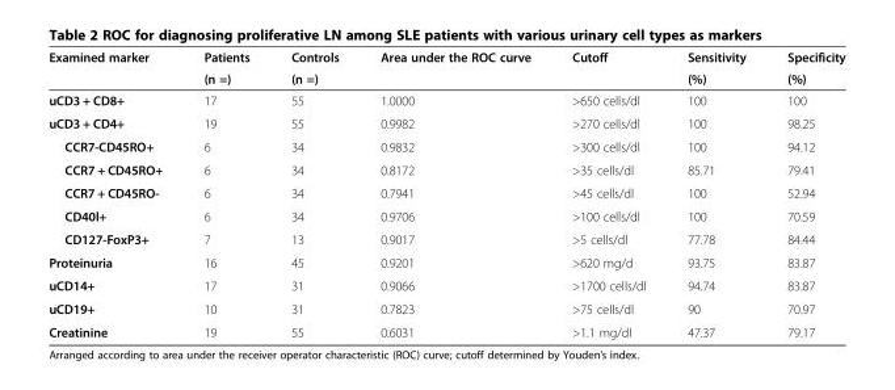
<table><thead><tr><td rowspan="2">Examined marker</td><td rowspan="2">Patients (n =)</td><td rowspan="2">Controls (n =)</td><td rowspan="2">Area under the ROC curve</td><td rowspan="2">Cutoff</td><td rowspan="2">Sensitivity (%)</td><td rowspan="2">Specificity (%)</td></tr><tr></tr></thead><tbody><tr><td>uCD3 + CD8+</td><td>17</td><td>55</td><td>1.0000</td><td>&gt;650 cells/dl</td><td>100</td><td>100</td></tr><tr><td>uCD3 + CD4+</td><td>19</td><td>55</td><td>0.9982</td><td>&gt;270 cells/dl</td><td>100</td><td>98.25</td></tr><tr><td>CCR7-CD45RO+</td><td>6</td><td>34</td><td>0.9832</td><td>&gt;300 cells/dl</td><td>100</td><td>94.12</td></tr><tr><td>CCR7 + CD45RO+</td><td>6</td><td>34</td><td>0.8172</td><td>&gt;35 cells/dl</td><td>85.71</td><td>79.41</td></tr><tr><td>CCR7 + CD45RO-</td><td>6</td><td>34</td><td>0.7941</td><td>&gt;45 cells/dl</td><td>100</td><td>52.94</td></tr><tr><td>CD40l+</td><td>6</td><td>34</td><td>0.9706</td><td>&gt;100 cells/dl</td><td>100</td><td>70.59</td></tr><tr><td>CD127-FoxP3+</td><td>7</td><td>13</td><td>0.9017</td><td>&gt;5 cells/dl</td><td>77.78</td><td>84.44</td></tr><tr><td>Proteinuria</td><td>16</td><td>45</td><td>0.9201</td><td>&gt;620 mg/d</td><td>93.75</td><td>83.87</td></tr><tr><td>uCD14+</td><td>17</td><td>31</td><td>0.9066</td><td>&gt;1700 cells/dl</td><td>94.74</td><td>83.87</td></tr><tr><td>uCD19+</td><td>10</td><td>31</td><td>0.7823</td><td>&gt;75 cells/dl</td><td>90</td><td>70.97</td></tr><tr><td>Creatinine</td><td>19</td><td>55</td><td>0.6031</td><td>&gt;1.1 mg/dl</td><td>47.37</td><td>79.17</td></tr></tbody></table>